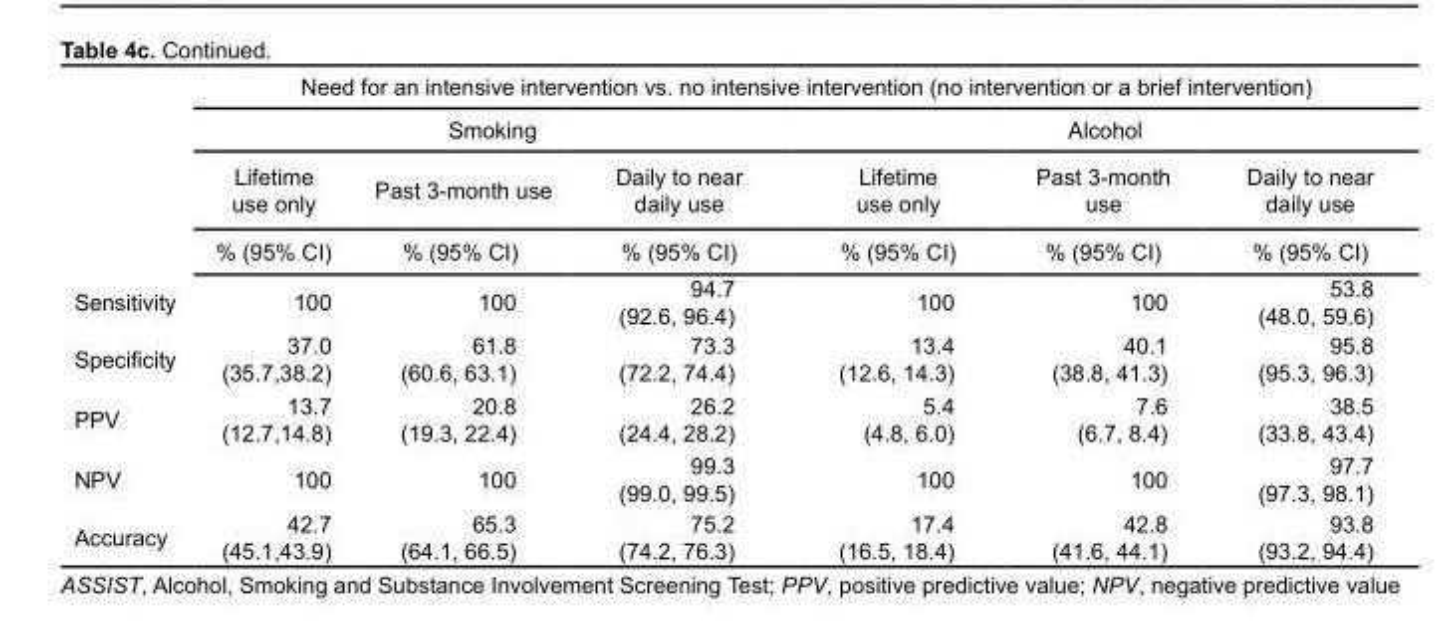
<table><thead><tr><td rowspan="4"></td><td colspan="6">Need for an intensive intervention vs. no intensive intervention (no intervention or a brief intervention)</td></tr><tr><td colspan="3">Smoking</td><td colspan="3">Alcohol</td></tr><tr><td rowspan="2">Lifetime use only % (95% CI)</td><td rowspan="2">Past 3-month use % (95% CI)</td><td rowspan="2">Daily to near daily use % (95% CI)</td><td rowspan="2">Lifetime use only % (95% CI)</td><td rowspan="2">Past 3-month use % (95% CI)</td><td rowspan="2">Daily to near daily use % (95% CI)</td></tr><tr></tr></thead><tbody><tr><td>Sensitivity</td><td>100</td><td>100</td><td>94.7 (92.6, 96.4)</td><td>100</td><td>100</td><td>53.8 (48.0, 59.6)</td></tr><tr><td>Specificity</td><td>37.0 (35.7,38.2)</td><td>61.8 (60.6, 63.1)</td><td>73.3 (72.2, 74.4)</td><td>13.4 (12.6, 14.3)</td><td>40.1 (38.8, 41.3)</td><td>95.8 (95.3, 96.3)</td></tr><tr><td>PPV</td><td>13.7 (12.7,14.8)</td><td>20.8 (19.3, 22.4)</td><td>26.2 (24.4, 28.2)</td><td>5.4 (4.8, 6.0)</td><td>7.6 (6.7, 8.4)</td><td>38.5 (33.8, 43.4)</td></tr><tr><td>NPV</td><td>100</td><td>100</td><td>99.3 (99.0, 99.5)</td><td>100</td><td>100</td><td>97.7 (97.3, 98.1)</td></tr><tr><td>Accuracy</td><td>42.7 (45.1,43.9)</td><td>65.3 (64.1, 66.5)</td><td>75.2 (74.2, 76.3)</td><td>17.4 (16.5, 18.4)</td><td>42.8 (41.6, 44.1)</td><td>93.8 (93.2, 94.4)</td></tr></tbody></table>